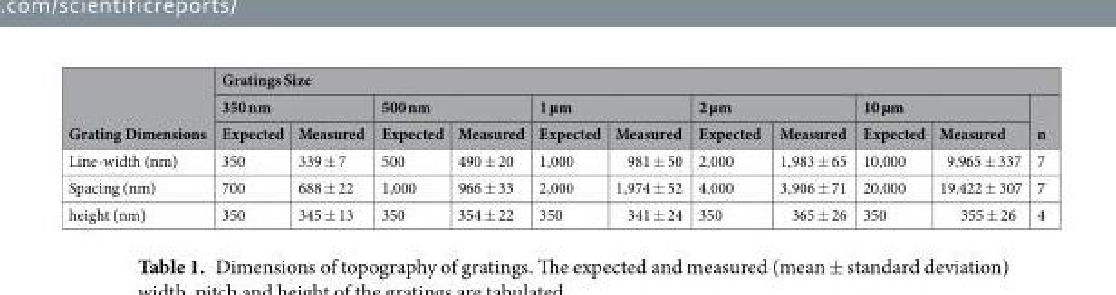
<table><thead><tr><td rowspan="3">Grating Dimensions</td><td colspan="11">Gratings Size</td></tr><tr><td colspan="2">350 nm</td><td colspan="2">500 nm</td><td colspan="2">1 µm</td><td colspan="2">2 µm</td><td colspan="2">10 µm</td><td rowspan="2">n</td></tr><tr><td>Expected</td><td>Measured</td><td>Expected</td><td>Measured</td><td>Expected</td><td>Measured</td><td>Expected</td><td>Measured</td><td>Expected</td><td>Measured</td></tr></thead><tbody><tr><td>Line-width (nm)</td><td>350</td><td>339 ± 7</td><td>500</td><td>490 ± 20</td><td>1,000</td><td>981 ± 50</td><td>2,000</td><td>1,983 ± 65</td><td>10,000</td><td>9,965 ± 337</td><td>7</td></tr><tr><td>Spacing (nm)</td><td>700</td><td>688 ± 22</td><td>1,000</td><td>966 ± 33</td><td>2,000</td><td>1,974 ± 52</td><td>4,000</td><td>3,906 ± 71</td><td>20,000</td><td>19,422 ± 307</td><td>7</td></tr><tr><td>height (nm)</td><td>350</td><td>345 ± 13</td><td>350</td><td>354 ± 22</td><td>350</td><td>341 ± 24</td><td>350</td><td>365 ± 26</td><td>350</td><td>355 ± 26</td><td>4</td></tr></tbody></table>